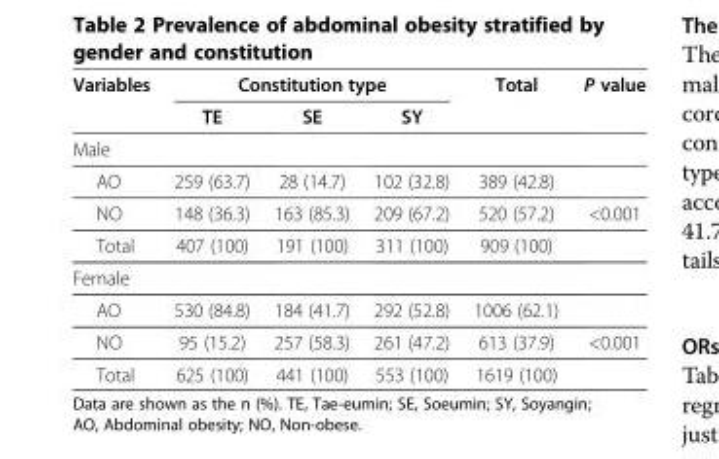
<table><thead><tr><td rowspan="2">Variables</td><td colspan="3">Constitution type</td><td rowspan="2">Total</td><td rowspan="2">P value</td></tr><tr><td>TE</td><td>SE</td><td>SY</td></tr></thead><tbody><tr><td colspan="6">Male</td></tr><tr><td>AO</td><td>259 (63.7)</td><td>28 (14.7)</td><td>102 (32.8)</td><td>389 (42.8)</td><td></td></tr><tr><td>NO</td><td>148 (36.3)</td><td>163 (85.3)</td><td>209 (67.2)</td><td>520 (57.2)</td><td>&lt;0.001</td></tr><tr><td>Total</td><td>407 (100)</td><td>191 (100)</td><td>311 (100)</td><td>909 (100)</td><td></td></tr><tr><td colspan="6">Female</td></tr><tr><td>AO</td><td>530 (84.8)</td><td>184 (41.7)</td><td>292 (52.8)</td><td>1006 (62.1)</td><td></td></tr><tr><td>NO</td><td>95 (15.2)</td><td>257 (58.3)</td><td>261 (47.2)</td><td>613 (37.9)</td><td>&lt;0.001</td></tr><tr><td>Total</td><td>625 (100)</td><td>441 (100)</td><td>553 (100)</td><td>1619 (100)</td><td></td></tr></tbody></table>